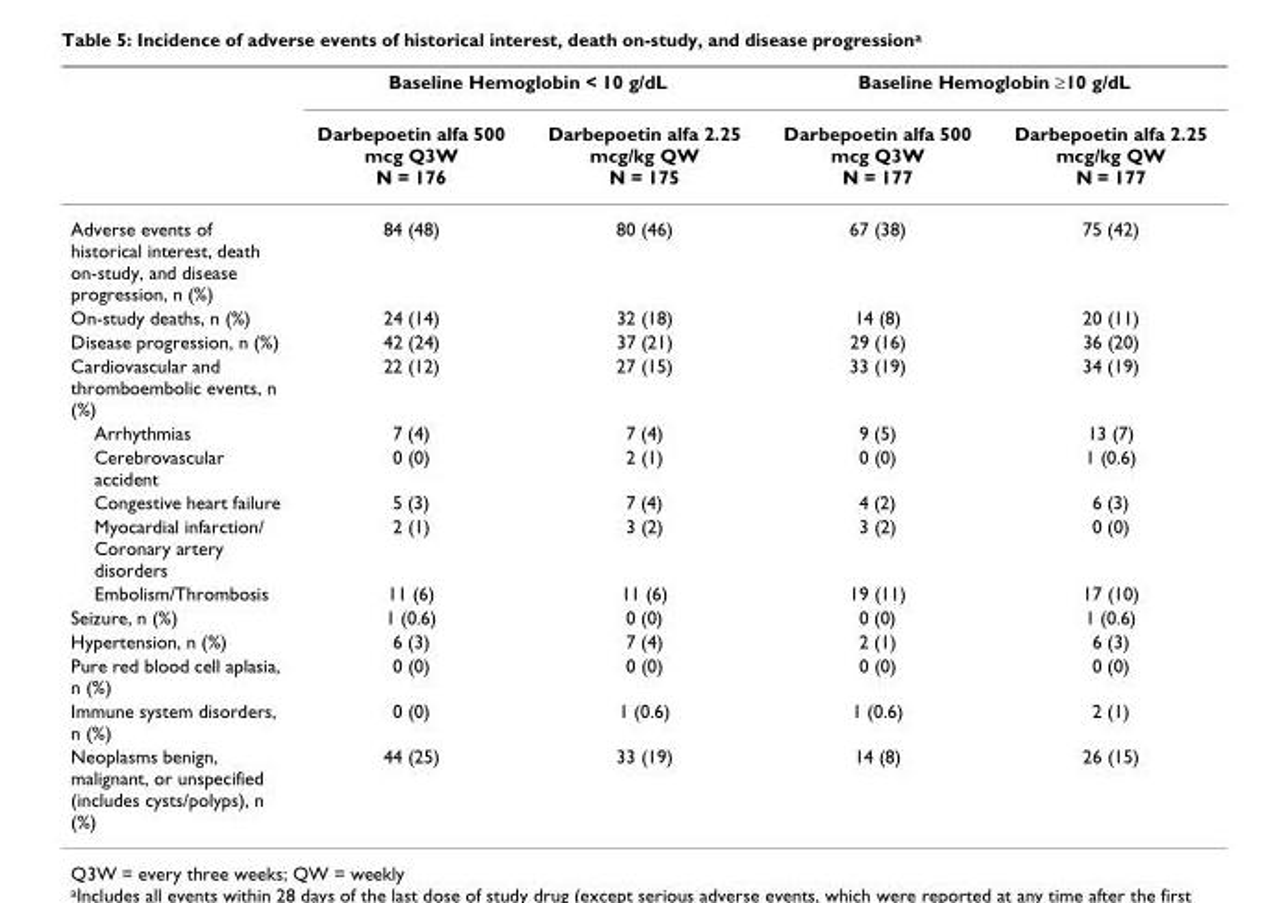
<table><thead><tr><td rowspan="2"></td><td colspan="2">Baseline Hemoglobin &lt; 10 g/dL</td><td colspan="2">Baseline Hemoglobin ≥10 g/dL</td></tr><tr><td>Darbepoetin alfa 500 mcg Q3W N = 176</td><td>Darbepoetin alfa 2.25 mcg/kg QW N = 175</td><td>Darbepoetin alfa 500 mcg Q3W N = 177</td><td>Darbepoetin alfa 2.25 mcg/kg QW N = 177</td></tr></thead><tbody><tr><td>Adverse events of historical interest, death on-study, and disease progression, n (%)</td><td>84 (48)</td><td>80 (46)</td><td>67 (38)</td><td>75 (42)</td></tr><tr><td>On-study deaths, n (%)</td><td>24 (14)</td><td>32 (18)</td><td>14 (8)</td><td>20 (11)</td></tr><tr><td>Disease progression, n (%)</td><td>42 (24)</td><td>37 (21)</td><td>29 (16)</td><td>36 (20)</td></tr><tr><td>Cardiovascular and thromboembolic events, n (%)</td><td>22 (12)</td><td>27 (15)</td><td>33 (19)</td><td>34 (19)</td></tr><tr><td>Arrhythmias</td><td>7 (4)</td><td>7 (4)</td><td>9 (5)</td><td>13 (7)</td></tr><tr><td>Cerebrovascular accident</td><td>0 (0)</td><td>2 (1)</td><td>0 (0)</td><td>1 (0.6)</td></tr><tr><td>Congestive heart failure</td><td>5 (3)</td><td>7 (4)</td><td>4 (2)</td><td>6 (3)</td></tr><tr><td>Myocardial infarction/ Coronary artery disorders</td><td>2 (1)</td><td>3 (2)</td><td>3 (2)</td><td>0 (0)</td></tr><tr><td>Embolism/Thrombosis</td><td>11 (6)</td><td>11 (6)</td><td>19 (11)</td><td>17 (10)</td></tr><tr><td>Seizure, n (%)</td><td>1 (0.6)</td><td>0 (0)</td><td>0 (0)</td><td>1 (0.6)</td></tr><tr><td>Hypertension, n (%)</td><td>6 (3)</td><td>7 (4)</td><td>2 (1)</td><td>6 (3)</td></tr><tr><td>Pure red blood cell aplasia, n (%)</td><td>0 (0)</td><td>0 (0)</td><td>0 (0)</td><td>0 (0)</td></tr><tr><td>Immune system disorders, n (%)</td><td>0 (0)</td><td>1 (0.6)</td><td>1 (0.6)</td><td>2 (1)</td></tr><tr><td>Neoplasms benign, malignant, or unspecified (includes cysts/polyps), n (%)</td><td>44 (25)</td><td>33 (19)</td><td>14 (8)</td><td>26 (15)</td></tr></tbody></table>